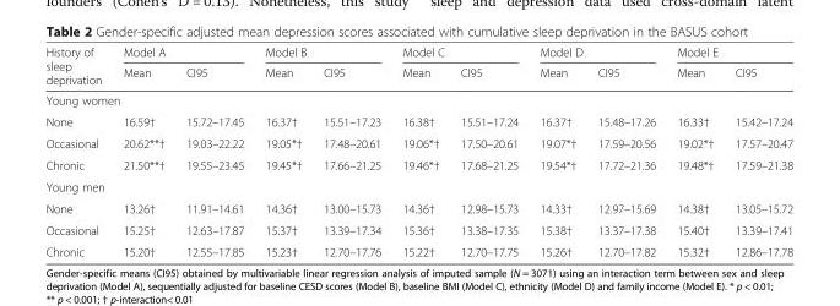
<table><thead><tr><td rowspan="2">History of sleep deprivation</td><td colspan="2">Model A</td><td colspan="2">Model B</td><td colspan="2">Model C</td><td colspan="2">Model D</td><td colspan="2">Model E</td></tr><tr><td>Mean</td><td>CI95</td><td>Mean</td><td>CI95</td><td>Mean</td><td>CI95</td><td>Mean</td><td>CI95</td><td>Mean</td><td>CI95</td></tr></thead><tbody><tr><td colspan="11">Young women</td></tr><tr><td>None</td><td>16.59†</td><td>15.72–17.45</td><td>16.37†</td><td>15.51–17.23</td><td>16.38†</td><td>15.51–17.24</td><td>16.37†</td><td>15.48–17.26</td><td>16.33†</td><td>15.42–17.24</td></tr><tr><td>Occasional</td><td>20.62**†</td><td>19.03–22.22</td><td>19.05*†</td><td>17.48–20.61</td><td>19.06*†</td><td>17.50–20.61</td><td>19.07*†</td><td>17.59–20.56</td><td>19.02*†</td><td>17.57–20.47</td></tr><tr><td>Chronic</td><td>21.50**†</td><td>19.55–23.45</td><td>19.45*†</td><td>17.66–21.25</td><td>19.46*†</td><td>17.68–21.25</td><td>19.54*†</td><td>17.72–21.36</td><td>19.48*†</td><td>17.59–21.38</td></tr><tr><td colspan="11">Young men</td></tr><tr><td>None</td><td>13.26†</td><td>11.91–14.61</td><td>14.36†</td><td>13.00–15.73</td><td>14.36†</td><td>12.98–15.73</td><td>14.33†</td><td>12.97–15.69</td><td>14.38†</td><td>13.05–15.72</td></tr><tr><td>Occasional</td><td>15.25†</td><td>12.63–17.87</td><td>15.37†</td><td>13.39–17.34</td><td>15.36†</td><td>13.38–17.35</td><td>15.38†</td><td>13.37–17.38</td><td>15.40†</td><td>13.39–17.41</td></tr><tr><td>Chronic</td><td>15.20†</td><td>12.55–17.85</td><td>15.23†</td><td>12.70–17.76</td><td>15.22†</td><td>12.70–17.75</td><td>15.26†</td><td>12.70–17.82</td><td>15.32†</td><td>12.86–17.78</td></tr></tbody></table>